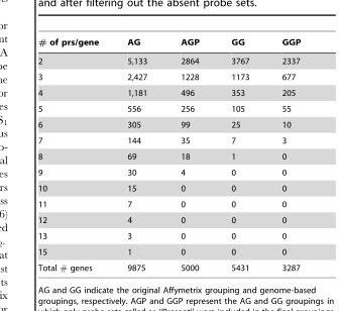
<table><thead><tr><td># of prs/gene</td><td>AG</td><td>AGP</td><td>GG</td><td>GGP</td></tr></thead><tbody><tr><td>2</td><td>5,133</td><td>2864</td><td>3767</td><td>2337</td></tr><tr><td>3</td><td>2,427</td><td>1228</td><td>1173</td><td>677</td></tr><tr><td>4</td><td>1,181</td><td>496</td><td>353</td><td>205</td></tr><tr><td>5</td><td>556</td><td>256</td><td>105</td><td>55</td></tr><tr><td>6</td><td>305</td><td>99</td><td>25</td><td>10</td></tr><tr><td>7</td><td>144</td><td>35</td><td>7</td><td>3</td></tr><tr><td>8</td><td>69</td><td>18</td><td>1</td><td>0</td></tr><tr><td>9</td><td>30</td><td>4</td><td>0</td><td>0</td></tr><tr><td>10</td><td>15</td><td>0</td><td>0</td><td>0</td></tr><tr><td>11</td><td>7</td><td>0</td><td>0</td><td>0</td></tr><tr><td>12</td><td>4</td><td>0</td><td>0</td><td>0</td></tr><tr><td>13</td><td>3</td><td>0</td><td>0</td><td>0</td></tr><tr><td>15</td><td>1</td><td>0</td><td>0</td><td>0</td></tr><tr><td>Total # genes</td><td>9875</td><td>5000</td><td>5431</td><td>3287</td></tr></tbody></table>